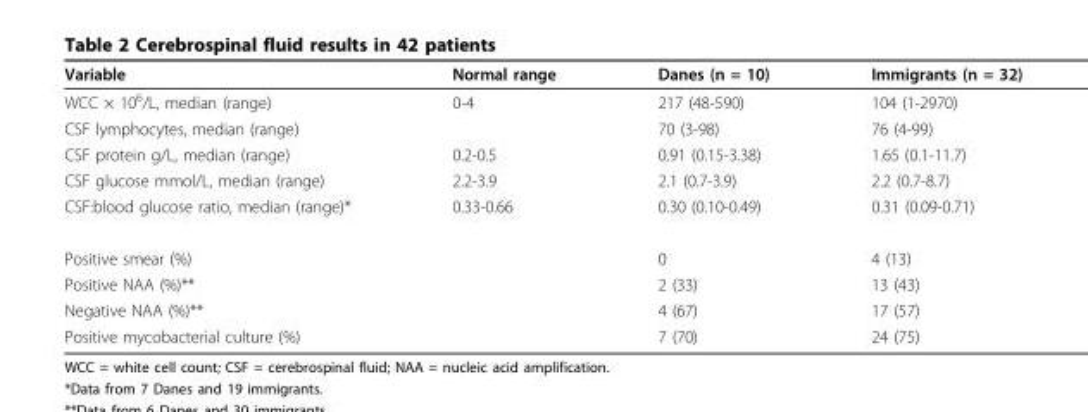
<table><thead><tr><td>Variable</td><td>Normal range</td><td>Danes (n = 10)</td><td>Immigrants (n = 32)</td></tr></thead><tbody><tr><td>WCC × 10<sup>6</sup>/L, median (range)</td><td>0-4</td><td>217 (48-590)</td><td>104 (1-2970)</td></tr><tr><td>CSF lymphocytes, median (range)</td><td></td><td>70 (3-98)</td><td>76 (4-99)</td></tr><tr><td>CSF protein g/L, median (range)</td><td>0.2-0.5</td><td>0.91 (0.15-3.38)</td><td>1.65 (0.1-11.7)</td></tr><tr><td>CSF glucose mmol/L, median (range)</td><td>2.2-3.9</td><td>2.1 (0.7-3.9)</td><td>2.2 (0.7-8.7)</td></tr><tr><td>CSF:blood glucose ratio, median (range)*</td><td>0.33-0.66</td><td>0.30 (0.10-0.49)</td><td>0.31 (0.09-0.71)</td></tr><tr><td>Positive smear (%)</td><td></td><td>0</td><td>4 (13)</td></tr><tr><td>Positive NAA (%)**</td><td></td><td>2 (33)</td><td>13 (43)</td></tr><tr><td>Negative NAA (%)**</td><td></td><td>4 (67)</td><td>17 (57)</td></tr><tr><td>Positive mycobacterial culture (%)</td><td></td><td>7 (70)</td><td>24 (75)</td></tr></tbody></table>